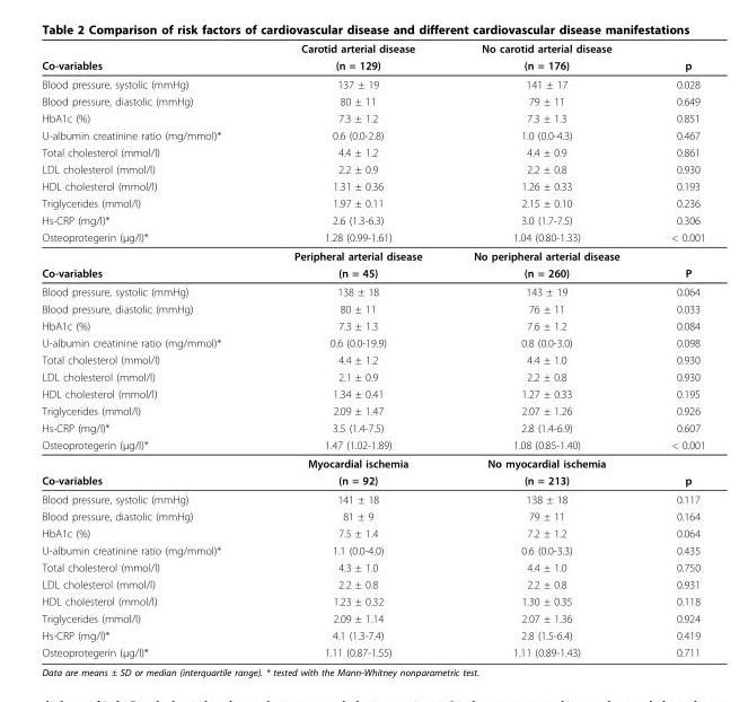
<table><thead><tr><td rowspan="2">Co-variables</td><td rowspan="2">Carotid arterial disease (n = 129)</td><td rowspan="2">No carotid arterial disease (n = 176)</td><td rowspan="2">p</td></tr><tr></tr></thead><tbody><tr><td>Blood pressure, systolic (mmHg)</td><td>137 ± 19</td><td>141 ± 17</td><td>0.028</td></tr><tr><td>Blood pressure, diastolic (mmHg)</td><td>80 ± 11</td><td>79 ± 11</td><td>0.649</td></tr><tr><td>HbA1c (%)</td><td>7.3 ± 1.2</td><td>7.3 ± 1.3</td><td>0.851</td></tr><tr><td>U-albumin creatinine ratio (mg/mmol)*</td><td>0.6 (0.0-2.8)</td><td>1.0 (0.0-4.3)</td><td>0.467</td></tr><tr><td>Total cholesterol (mmol/l)</td><td>4.4 ± 1.2</td><td>4.4 ± 0.9</td><td>0.861</td></tr><tr><td>LDL cholesterol (mmol/l)</td><td>2.2 ± 0.9</td><td>2.2 ± 0.8</td><td>0.930</td></tr><tr><td>HDL cholesterol (mmol/l)</td><td>1.31 ± 0.36</td><td>1.26 ± 0.33</td><td>0.193</td></tr><tr><td>Triglycerides (mmol/l)</td><td>1.97 ± 0.11</td><td>2.15 ± 0.10</td><td>0.236</td></tr><tr><td>Hs-CRP (mg/l)*</td><td>2.6 (1.3-6.3)</td><td>3.0 (1.7-7.5)</td><td>0.306</td></tr><tr><td rowspan="2">Osteoprotegerin (μg/l)*</td><td>1.28 (0.99-1.61)</td><td>1.04 (0.80-1.33)</td><td>&lt; 0.001</td></tr><tr><td>Peripheral arterial disease</td><td>No peripheral arterial disease</td><td></td></tr><tr><td>Co-variables</td><td>(n = 45)</td><td>(n = 260)</td><td>P</td></tr><tr><td>Blood pressure, systolic (mmHg)</td><td>138 ± 18</td><td>143 ± 19</td><td>0.064</td></tr><tr><td>Blood pressure, diastolic (mmHg)</td><td>80 ± 11</td><td>76 ± 11</td><td>0.033</td></tr><tr><td>HbA1c (%)</td><td>7.3 ± 1.3</td><td>7.6 ± 1.2</td><td>0.084</td></tr><tr><td>U-albumin creatinine ratio (mg/mmol)*</td><td>0.6 (0.0-19.9)</td><td>0.8 (0.0-3.0)</td><td>0.098</td></tr><tr><td>Total cholesterol (mmol/l)</td><td>4.4 ± 1.2</td><td>4.4 ± 1.0</td><td>0.930</td></tr><tr><td>LDL cholesterol (mmol/l)</td><td>2.1 ± 0.9</td><td>2.2 ± 0.8</td><td>0.930</td></tr><tr><td>HDL cholesterol (mmol/l)</td><td>1.34 ± 0.41</td><td>1.27 ± 0.33</td><td>0.195</td></tr><tr><td>Triglycerides (mmol/l)</td><td>2.09 ± 1.47</td><td>2.07 ± 1.26</td><td>0.926</td></tr><tr><td>Hs-CRP (mg/l)*</td><td>3.5 (1.4-7.5)</td><td>2.8 (1.4-6.9)</td><td>0.607</td></tr><tr><td rowspan="2">Osteoprotegerin (μg/l)*</td><td>1.47 (1.02-1.89)</td><td>1.08 (0.85-1.40)</td><td>&lt; 0.001</td></tr><tr><td>Myocardial ischemia</td><td>No myocardial ischemia</td><td></td></tr><tr><td>Co-variables</td><td>(n = 92)</td><td>(n = 213)</td><td>p</td></tr><tr><td>Blood pressure, systolic (mmHg)</td><td>141 ± 18</td><td>138 ± 18</td><td>0.117</td></tr><tr><td>Blood pressure, diastolic (mmHg)</td><td>81 ± 9</td><td>79 ± 11</td><td>0.164</td></tr><tr><td>HbA1c (%)</td><td>7.5 ± 1.4</td><td>7.2 ± 1.2</td><td>0.064</td></tr><tr><td>U-albumin creatinine ratio (mg/mmol)*</td><td>1.1 (0.0-4.0)</td><td>0.6 (0.0-3.3)</td><td>0.435</td></tr><tr><td>Total cholesterol (mmol/l)</td><td>4.3 ± 1.0</td><td>4.4 ± 1.0</td><td>0.750</td></tr><tr><td>LDL cholesterol (mmol/l)</td><td>2.2 ± 0.8</td><td>2.2 ± 0.8</td><td>0.931</td></tr><tr><td>HDL cholesterol (mmol/l)</td><td>1.23 ± 0.32</td><td>1.30 ± 0.35</td><td>0.118</td></tr><tr><td>Triglycerides (mmol/l)</td><td>2.09 ± 1.14</td><td>2.07 ± 1.36</td><td>0.924</td></tr><tr><td>Hs-CRP (mg/l)*</td><td>4.1 (1.3-7.4)</td><td>2.8 (1.5-6.4)</td><td>0.419</td></tr><tr><td>Osteoprotegerin (μg/l)*</td><td>1.11 (0.87-1.55)</td><td>1.11 (0.89-1.43)</td><td>0.711</td></tr></tbody></table>